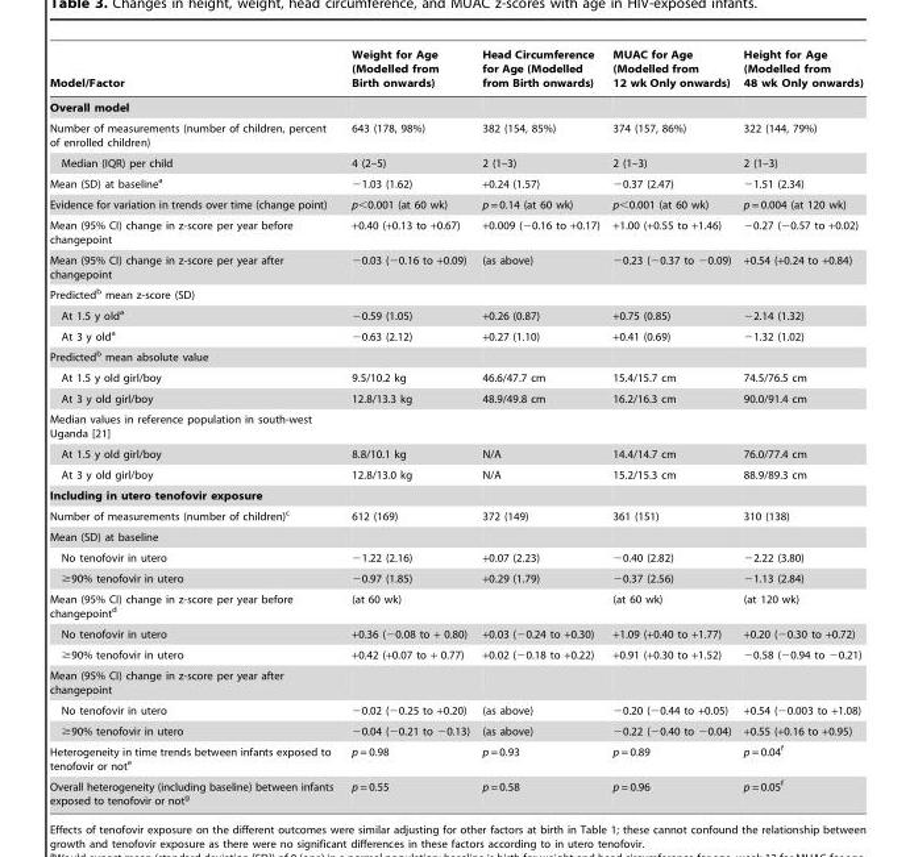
<table><thead><tr><td>Model/Factor</td><td>Weight for Age (Modelled from Birth onwards)</td><td>Head Circumference for Age (Modelled from Birth onwards)</td><td>MUAC for Age (Modelled from 12 wk Only onwards)</td><td>Height for Age (Modelled from 48 wk Only onwards)</td></tr></thead><tbody><tr><td colspan="5">Overall model</td></tr><tr><td>Number of measurements (number of children, percent of enrolled children)</td><td>643 (178, 98%)</td><td>382 (154, 85%)</td><td>374 (157, 86%)</td><td>322 (144, 79%)</td></tr><tr><td>Median (IQR) per child</td><td>4 (2–5)</td><td>2 (1–3)</td><td>2 (1–3)</td><td>2 (1–3)</td></tr><tr><td>Mean (SD) at baseline<sup>a</sup></td><td>−1.03 (1.62)</td><td>+0.24 (1.57)</td><td>−0.37 (2.47)</td><td>−1.51 (2.34)</td></tr><tr><td>Evidence for variation in trends over time (change point)</td><td>p&lt;0.001 (at 60 wk)</td><td>p = 0.14 (at 60 wk)</td><td>p&lt;0.001 (at 60 wk)</td><td>p = 0.004 (at 120 wk)</td></tr><tr><td>Mean (95% CI) change in z-score per year before changepoint</td><td>+0.40 (+0.13 to +0.67)</td><td>+0.009 (−0.16 to +0.17)</td><td>+1.00 (+0.55 to +1.46)</td><td>−0.27 (−0.57 to +0.02)</td></tr><tr><td>Mean (95% CI) change in z-score per year after changepoint</td><td>−0.03 (−0.16 to +0.09)</td><td>(as above)</td><td>−0.23 (−0.37 to −0.09)</td><td>+0.54 (+0.24 to +0.84)</td></tr><tr><td colspan="5">Predicted<sup>b</sup> mean z-score (SD)</td></tr><tr><td>At 1.5 y old<sup>a</sup></td><td>−0.59 (1.05)</td><td>+0.26 (0.87)</td><td>+0.75 (0.85)</td><td>−2.14 (1.32)</td></tr><tr><td>At 3 y old<sup>a</sup></td><td>−0.63 (2.12)</td><td>+0.27 (1.10)</td><td>+0.41 (0.69)</td><td>−1.32 (1.02)</td></tr><tr><td colspan="5">Predicted<sup>b</sup> mean absolute value</td></tr><tr><td>At 1.5 y old girl/boy</td><td>9.5/10.2 kg</td><td>46.6/47.7 cm</td><td>15.4/15.7 cm</td><td>74.5/76.5 cm</td></tr><tr><td>At 3 y old girl/boy</td><td>12.8/13.3 kg</td><td>48.9/49.8 cm</td><td>16.2/16.3 cm</td><td>90.0/91.4 cm</td></tr><tr><td colspan="5">Median values in reference population in south-west Uganda [21]</td></tr><tr><td>At 1.5 y old girl/boy</td><td>8.8/10.1 kg</td><td>N/A</td><td>14.4/14.7 cm</td><td>76.0/77.4 cm</td></tr><tr><td>At 3 y old girl/boy</td><td>12.8/13.0 kg</td><td>N/A</td><td>15.2/15.3 cm</td><td>88.9/89.3 cm</td></tr><tr><td colspan="5">Including in utero tenofovir exposure</td></tr><tr><td>Number of measurements (number of children)<sup>c</sup></td><td>612 (169)</td><td>372 (149)</td><td>361 (151)</td><td>310 (138)</td></tr><tr><td colspan="5">Mean (SD) at baseline</td></tr><tr><td>No tenofovir in utero</td><td>−1.22 (2.16)</td><td>+0.07 (2.23)</td><td>−0.40 (2.82)</td><td>−2.22 (3.80)</td></tr><tr><td>≥90% tenofovir in utero</td><td>−0.97 (1.85)</td><td>+0.29 (1.79)</td><td>−0.37 (2.56)</td><td>−1.13 (2.84)</td></tr><tr><td>Mean (95% CI) change in z-score per year before changepoint<sup>d</sup></td><td>(at 60 wk)</td><td></td><td>(at 60 wk)</td><td>(at 120 wk)</td></tr><tr><td>No tenofovir in utero</td><td>+0.36 (−0.08 to + 0.80)</td><td>+0.03 (−0.24 to +0.30)</td><td>+1.09 (+0.40 to +1.77)</td><td>+0.20 (−0.30 to +0.72)</td></tr><tr><td>≥90% tenofovir in utero</td><td>+0.42 (+0.07 to + 0.77)</td><td>+0.02 (−0.18 to +0.22)</td><td>+0.91 (+0.30 to +1.52)</td><td>−0.58 (−0.94 to −0.21)</td></tr><tr><td colspan="5">Mean (95% CI) change in z-score per year after changepoint</td></tr><tr><td>No tenofovir in utero</td><td>−0.02 (−0.25 to +0.20)</td><td>(as above)</td><td>−0.20 (−0.44 to +0.05)</td><td>+0.54 (−0.003 to +1.08)</td></tr><tr><td>≥90% tenofovir in utero</td><td>−0.04 (−0.21 to −0.13)</td><td>(as above)</td><td>−0.22 (−0.40 to −0.04)</td><td>+0.55 (+0.16 to +0.95)</td></tr><tr><td>Heterogeneity in time trends between infants exposed to tenofovir or not<sup>e</sup></td><td>p = 0.98</td><td>p = 0.93</td><td>p = 0.89</td><td>p = 0.04<sup>f</sup></td></tr><tr><td>Overall heterogeneity (including baseline) between infants exposed to tenofovir or not<sup>g</sup></td><td>p = 0.55</td><td>p = 0.58</td><td>p = 0.96</td><td>p = 0.05<sup>f</sup></td></tr></tbody></table>